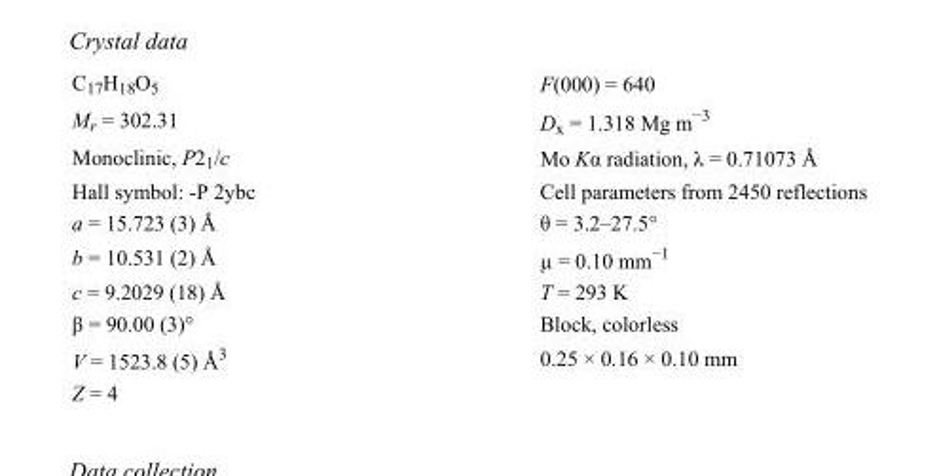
<table><tbody><tr><td>C<sub>17</sub>H<sub>18</sub>O<sub>5</sub></td><td>F(000) = 640</td></tr><tr><td>M<sub>r</sub> = 302.31</td><td>D<sub>x</sub> = 1.318 Mg m<sup>−3</sup></td></tr><tr><td>Monoclinic, P2<sub>1</sub>/c</td><td>Mo Kα radiation, λ = 0.71073 Å</td></tr><tr><td>Hall symbol: -P 2ybc</td><td>Cell parameters from 2450 reflections</td></tr><tr><td>a = 15.723 (3) Å</td><td>θ = 3.2–27.5°</td></tr><tr><td>b = 10.531 (2) Å</td><td>µ = 0.10 mm<sup>−1</sup></td></tr><tr><td>c = 9.2029 (18) Å</td><td>T = 293 K</td></tr><tr><td>β = 90.00 (3)°</td><td>Block, colorless</td></tr><tr><td>V = 1523.8 (5) Å<sup>3</sup></td><td>0.25 × 0.16 × 0.10 mm</td></tr><tr><td>Z = 4</td><td></td></tr></tbody></table>